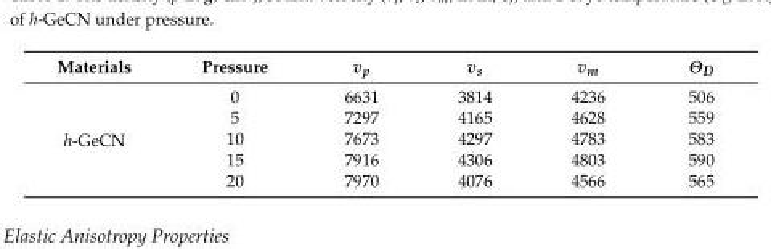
<table><thead><tr><td>Materials</td><td>Pressure</td><td>v<sub>p</sub></td><td>v<sub>s</sub></td><td>v<sub>m</sub></td><td>Θ<sub>D</sub></td></tr></thead><tbody><tr><td rowspan="5">h-GeCN</td><td>0</td><td>6631</td><td>3814</td><td>4236</td><td>506</td></tr><tr><td>5</td><td>7297</td><td>4165</td><td>4628</td><td>559</td></tr><tr><td>10</td><td>7673</td><td>4297</td><td>4783</td><td>583</td></tr><tr><td>15</td><td>7916</td><td>4306</td><td>4803</td><td>590</td></tr><tr><td>20</td><td>7970</td><td>4076</td><td>4566</td><td>565</td></tr></tbody></table>